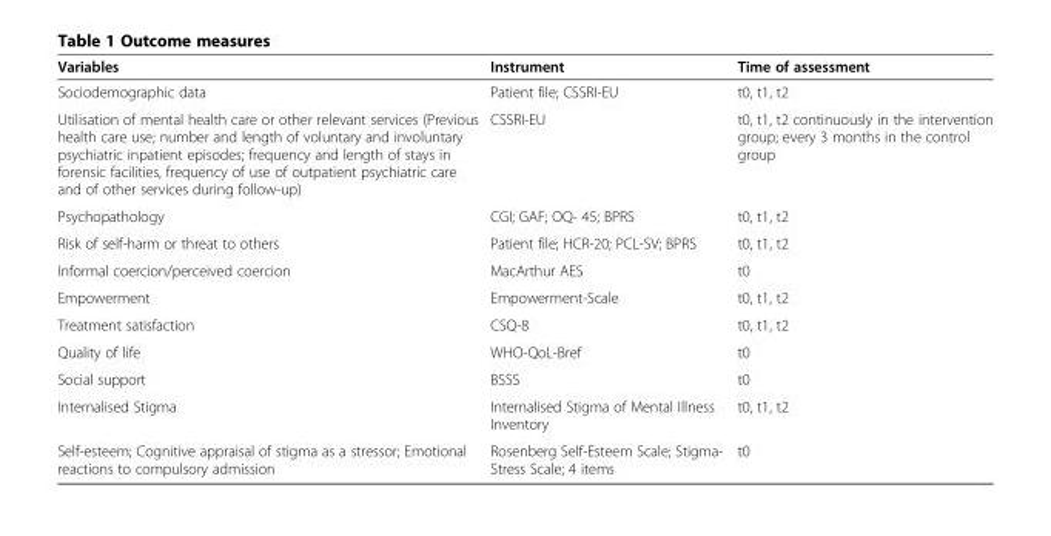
<table><thead><tr><td>Variables</td><td>Instrument</td><td>Time of assessment</td></tr></thead><tbody><tr><td>Sociodemographic data</td><td>Patient file; CSSRI-EU</td><td>t0, t1, t2</td></tr><tr><td>Utilisation of mental health care or other relevant services (Previous health care use; number and length of voluntary and involuntary psychiatric inpatient episodes; frequency and length of stays in forensic facilities, frequency of use of outpatient psychiatric care and of other services during follow-up)</td><td>CSSRI-EU</td><td>t0, t1, t2 continuously in the intervention group; every 3 months in the control group</td></tr><tr><td>Psychopathology</td><td>CGI; GAF; OQ- 45; BPRS</td><td>t0, t1, t2</td></tr><tr><td>Risk of self-harm or threat to others</td><td>Patient file; HCR-20; PCL-SV; BPRS</td><td>t0, t1, t2</td></tr><tr><td>Informal coercion/perceived coercion</td><td>MacArthur AES</td><td>t0</td></tr><tr><td>Empowerment</td><td>Empowerment-Scale</td><td>t0, t1, t2</td></tr><tr><td>Treatment satisfaction</td><td>CSQ-8</td><td>t0, t1, t2</td></tr><tr><td>Quality of life</td><td>WHO-QoL-Bref</td><td>t0</td></tr><tr><td>Social support</td><td>BSSS</td><td>t0</td></tr><tr><td>Internalised Stigma</td><td>Internalised Stigma of Mental Illness Inventory</td><td>t0, t1, t2</td></tr><tr><td>Self-esteem; Cognitive appraisal of stigma as a stressor; Emotional reactions to compulsory admission</td><td>Rosenberg Self-Esteem Scale; Stigma- Stress Scale; 4 items</td><td>t0</td></tr></tbody></table>